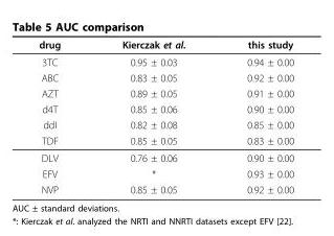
<table><thead><tr><td>drug</td><td>Kierczak et al.</td><td>this study</td></tr></thead><tbody><tr><td>3TC</td><td>0.95 ± 0.03</td><td>0.94 ± 0.00</td></tr><tr><td>ABC</td><td>0.83 ± 0.05</td><td>0.92 ± 0.00</td></tr><tr><td>AZT</td><td>0.89 ± 0.05</td><td>0.91 ± 0.00</td></tr><tr><td>d4T</td><td>0.85 ± 0.06</td><td>0.90 ± 0.00</td></tr><tr><td>ddI</td><td>0.82 ± 0.08</td><td>0.85 ± 0.00</td></tr><tr><td>TDF</td><td>0.85 ± 0.05</td><td>0.83 ± 0.00</td></tr><tr><td>DLV</td><td>0.76 ± 0.06</td><td>0.90 ± 0.00</td></tr><tr><td>EFV</td><td>*</td><td>0.93 ± 0.00</td></tr><tr><td>NVP</td><td>0.85 ± 0.05</td><td>0.92 ± 0.00</td></tr></tbody></table>